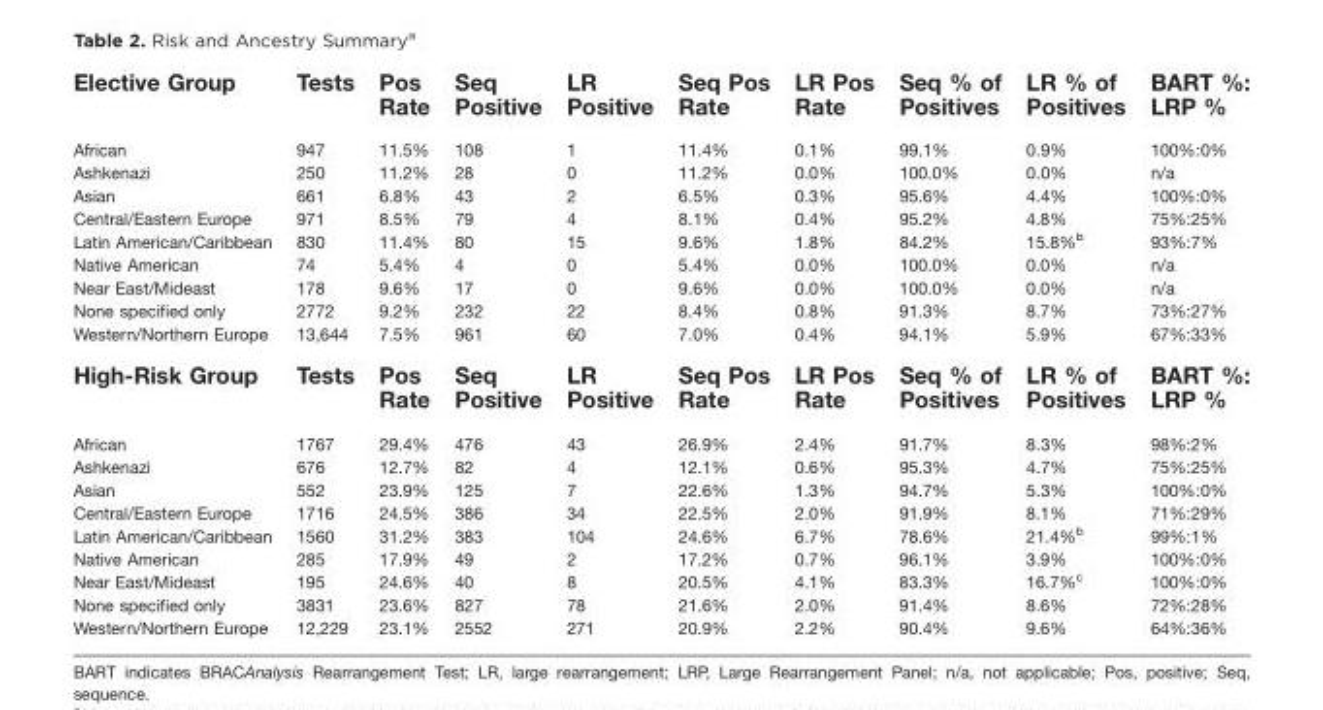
<table><thead><tr><td>Elective Group</td><td>Tests</td><td>Pos Rate</td><td>Seq Positive</td><td>LR Positive</td><td>Seq Pos Rate</td><td>LR Pos Rate</td><td>Seq % of Positives</td><td>LR % of Positives</td><td>BART %: LRP %</td></tr></thead><tbody><tr><td>African</td><td>947</td><td>11.5%</td><td>108</td><td>1</td><td>11.4%</td><td>0.1%</td><td>99.1%</td><td>0.9%</td><td>100%:0%</td></tr><tr><td>Ashkenazi</td><td>250</td><td>11.2%</td><td>28</td><td>0</td><td>11.2%</td><td>0.0%</td><td>100.0%</td><td>0.0%</td><td>n/a</td></tr><tr><td>Asian</td><td>661</td><td>6.8%</td><td>43</td><td>2</td><td>6.5%</td><td>0.3%</td><td>95.6%</td><td>4.4%</td><td>100%:0%</td></tr><tr><td>Central/Eastern Europe</td><td>971</td><td>8.5%</td><td>79</td><td>4</td><td>8.1%</td><td>0.4%</td><td>95.2%</td><td>4.8%</td><td>75%:25%</td></tr><tr><td>Latin American/Caribbean</td><td>830</td><td>11.4%</td><td>80</td><td>15</td><td>9.6%</td><td>1.8%</td><td>84.2%</td><td>15.8%<sup>b</sup></td><td>93%:7%</td></tr><tr><td>Native American</td><td>74</td><td>5.4%</td><td>4</td><td>0</td><td>5.4%</td><td>0.0%</td><td>100.0%</td><td>0.0%</td><td>n/a</td></tr><tr><td>Near East/Mideast</td><td>178</td><td>9.6%</td><td>17</td><td>0</td><td>9.6%</td><td>0.0%</td><td>100.0%</td><td>0.0%</td><td>n/a</td></tr><tr><td>None specified only</td><td>2772</td><td>9.2%</td><td>232</td><td>22</td><td>8.4%</td><td>0.8%</td><td>91.3%</td><td>8.7%</td><td>73%:27%</td></tr><tr><td>Western/Northern Europe</td><td>13,644</td><td>7.5%</td><td>961</td><td>60</td><td>7.0%</td><td>0.4%</td><td>94.1%</td><td>5.9%</td><td>67%:33%</td></tr><tr><td>High-Risk Group</td><td>Tests</td><td>Pos Rate</td><td>Seq Positive</td><td>LR Positive</td><td>Seq Pos Rate</td><td>LR Pos Rate</td><td>Seq % of Positives</td><td>LR % of Positives</td><td>BART %: LRP %</td></tr><tr><td>African</td><td>1767</td><td>29.4%</td><td>476</td><td>43</td><td>26.9%</td><td>2.4%</td><td>91.7%</td><td>8.3%</td><td>98%:2%</td></tr><tr><td>Ashkenazi</td><td>676</td><td>12.7%</td><td>82</td><td>4</td><td>12.1%</td><td>0.6%</td><td>95.3%</td><td>4.7%</td><td>75%:25%</td></tr><tr><td>Asian</td><td>552</td><td>23.9%</td><td>125</td><td>7</td><td>22.6%</td><td>1.3%</td><td>94.7%</td><td>5.3%</td><td>100%:0%</td></tr><tr><td>Central/Eastern Europe</td><td>1716</td><td>24.5%</td><td>386</td><td>34</td><td>22.5%</td><td>2.0%</td><td>91.9%</td><td>8.1%</td><td>71%:29%</td></tr><tr><td>Latin American/Caribbean</td><td>1560</td><td>31.2%</td><td>383</td><td>104</td><td>24.6%</td><td>6.7%</td><td>78.6%</td><td>21.4%<sup>b</sup></td><td>99%:1%</td></tr><tr><td>Native American</td><td>285</td><td>17.9%</td><td>49</td><td>2</td><td>17.2%</td><td>0.7%</td><td>96.1%</td><td>3.9%</td><td>100%:0%</td></tr><tr><td>Near East/Mideast</td><td>195</td><td>24.6%</td><td>40</td><td>8</td><td>20.5%</td><td>4.1%</td><td>83.3%</td><td>16.7%<sup>c</sup></td><td>100%:0%</td></tr><tr><td>None specified only</td><td>3831</td><td>23.6%</td><td>827</td><td>78</td><td>21.6%</td><td>2.0%</td><td>91.4%</td><td>8.6%</td><td>72%:28%</td></tr><tr><td>Western/Northern Europe</td><td>12,229</td><td>23.1%</td><td>2552</td><td>271</td><td>20.9%</td><td>2.2%</td><td>90.4%</td><td>9.6%</td><td>64%:36%</td></tr></tbody></table>